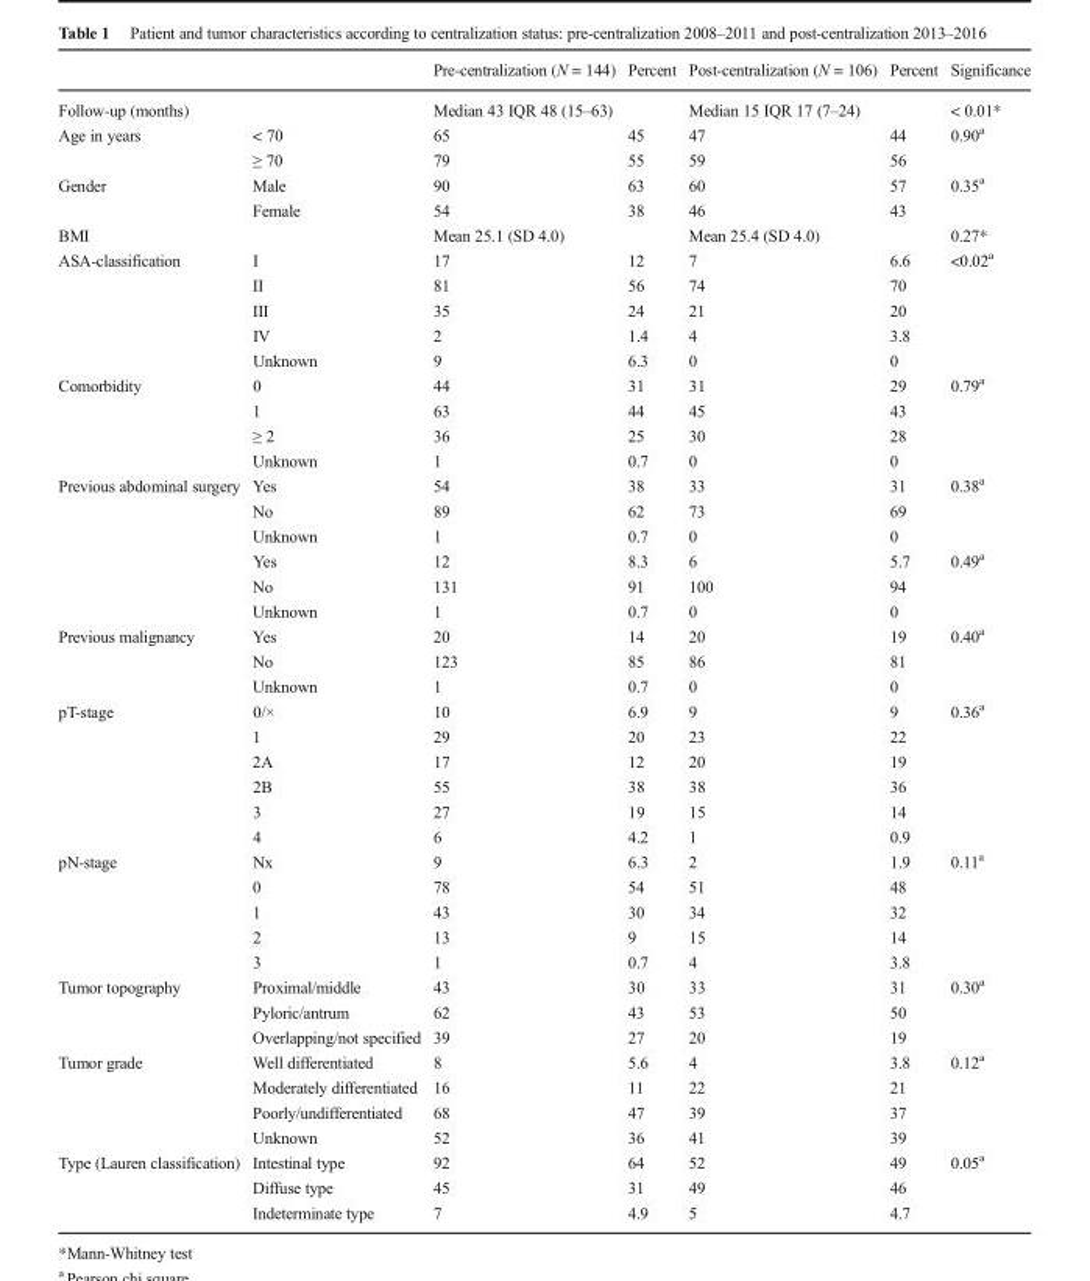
<table><thead><tr><td></td><td></td><td>Pre-centralization (N = 144)</td><td>Percent</td><td>Post-centralization (N = 106)</td><td>Percent</td><td>Significance</td></tr></thead><tbody><tr><td>Follow-up (months)</td><td></td><td>Median 43 IQR 48 (15–63)</td><td></td><td>Median 15 IQR 17 (7–24)</td><td></td><td>&lt; 0.01*</td></tr><tr><td rowspan="2">Age in years</td><td>&lt; 70</td><td>65</td><td>45</td><td>47</td><td>44</td><td>0.90<sup>a</sup></td></tr><tr><td>≥ 70</td><td>79</td><td>55</td><td>59</td><td>56</td><td></td></tr><tr><td rowspan="2">Gender</td><td>Male</td><td>90</td><td>63</td><td>60</td><td>57</td><td>0.35<sup>a</sup></td></tr><tr><td>Female</td><td>54</td><td>38</td><td>46</td><td>43</td><td></td></tr><tr><td>BMI</td><td></td><td>Mean 25.1 (SD 4.0)</td><td></td><td>Mean 25.4 (SD 4.0)</td><td></td><td>0.27*</td></tr><tr><td rowspan="5">ASA-classification</td><td>I</td><td>17</td><td>12</td><td>7</td><td>6.6</td><td>&lt;0.02<sup>a</sup></td></tr><tr><td>II</td><td>81</td><td>56</td><td>74</td><td>70</td><td></td></tr><tr><td>III</td><td>35</td><td>24</td><td>21</td><td>20</td><td></td></tr><tr><td>IV</td><td>2</td><td>1.4</td><td>4</td><td>3.8</td><td></td></tr><tr><td>Unknown</td><td>9</td><td>6.3</td><td>0</td><td>0</td><td></td></tr><tr><td rowspan="4">Comorbidity</td><td>0</td><td>44</td><td>31</td><td>31</td><td>29</td><td>0.79<sup>a</sup></td></tr><tr><td>1</td><td>63</td><td>44</td><td>45</td><td>43</td><td></td></tr><tr><td>≥ 2</td><td>36</td><td>25</td><td>30</td><td>28</td><td></td></tr><tr><td>Unknown</td><td>1</td><td>0.7</td><td>0</td><td>0</td><td></td></tr><tr><td rowspan="6">Previous abdominal surgery</td><td>Yes</td><td>54</td><td>38</td><td>33</td><td>31</td><td>0.38<sup>a</sup></td></tr><tr><td>No</td><td>89</td><td>62</td><td>73</td><td>69</td><td></td></tr><tr><td>Unknown</td><td>1</td><td>0.7</td><td>0</td><td>0</td><td></td></tr><tr><td>Yes</td><td>12</td><td>8.3</td><td>6</td><td>5.7</td><td>0.49<sup>a</sup></td></tr><tr><td>No</td><td>131</td><td>91</td><td>100</td><td>94</td><td></td></tr><tr><td>Unknown</td><td>1</td><td>0.7</td><td>0</td><td>0</td><td></td></tr><tr><td rowspan="3">Previous malignancy</td><td>Yes</td><td>20</td><td>14</td><td>20</td><td>19</td><td>0.40<sup>a</sup></td></tr><tr><td>No</td><td>123</td><td>85</td><td>86</td><td>81</td><td></td></tr><tr><td>Unknown</td><td>1</td><td>0.7</td><td>0</td><td>0</td><td></td></tr><tr><td rowspan="6">pT-stage</td><td>0/×</td><td>10</td><td>6.9</td><td>9</td><td>9</td><td>0.36<sup>a</sup></td></tr><tr><td>1</td><td>29</td><td>20</td><td>23</td><td>22</td><td></td></tr><tr><td>2A</td><td>17</td><td>12</td><td>20</td><td>19</td><td></td></tr><tr><td>2B</td><td>55</td><td>38</td><td>38</td><td>36</td><td></td></tr><tr><td>3</td><td>27</td><td>19</td><td>15</td><td>14</td><td></td></tr><tr><td>4</td><td>6</td><td>4.2</td><td>1</td><td>0.9</td><td></td></tr><tr><td rowspan="5">pN-stage</td><td>Nx</td><td>9</td><td>6.3</td><td>2</td><td>1.9</td><td>0.11<sup>a</sup></td></tr><tr><td>0</td><td>78</td><td>54</td><td>51</td><td>48</td><td></td></tr><tr><td>1</td><td>43</td><td>30</td><td>34</td><td>32</td><td></td></tr><tr><td>2</td><td>13</td><td>9</td><td>15</td><td>14</td><td></td></tr><tr><td>3</td><td>1</td><td>0.7</td><td>4</td><td>3.8</td><td></td></tr><tr><td rowspan="3">Tumor topography</td><td>Proximal/middle</td><td>43</td><td>30</td><td>33</td><td>31</td><td>0.30<sup>a</sup></td></tr><tr><td>Pyloric/antrum</td><td>62</td><td>43</td><td>53</td><td>50</td><td></td></tr><tr><td>Overlapping/not specified</td><td>39</td><td>27</td><td>20</td><td>19</td><td></td></tr><tr><td rowspan="4">Tumor grade</td><td>Well differentiated</td><td>8</td><td>5.6</td><td>4</td><td>3.8</td><td>0.12<sup>a</sup></td></tr><tr><td>Moderately differentiated</td><td>16</td><td>11</td><td>22</td><td>21</td><td></td></tr><tr><td>Poorly/undifferentiated</td><td>68</td><td>47</td><td>39</td><td>37</td><td></td></tr><tr><td>Unknown</td><td>52</td><td>36</td><td>41</td><td>39</td><td></td></tr><tr><td rowspan="3">Type (Lauren classification)</td><td>Intestinal type</td><td>92</td><td>64</td><td>52</td><td>49</td><td>0.05<sup>a</sup></td></tr><tr><td>Diffuse type</td><td>45</td><td>31</td><td>49</td><td>46</td><td></td></tr><tr><td>Indeterminate type</td><td>7</td><td>4.9</td><td>5</td><td>4.7</td><td></td></tr></tbody></table>